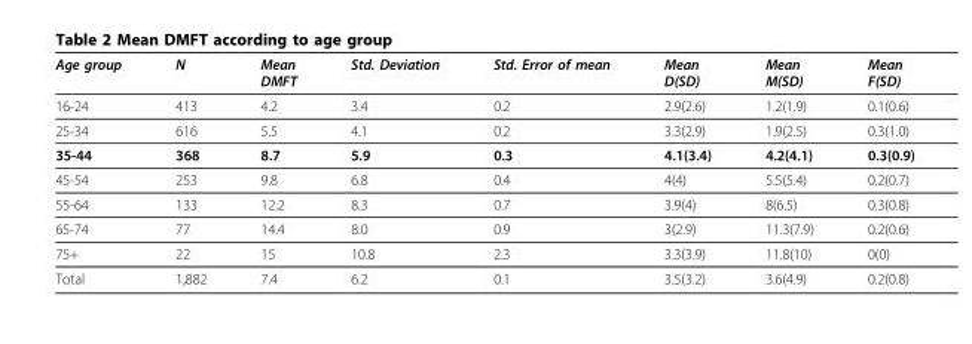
<table><thead><tr><td>Age group</td><td>N</td><td>Mean DMFT</td><td>Std. Deviation</td><td>Std. Error of mean</td><td>Mean D(SD)</td><td>Mean M(SD)</td><td>Mean F(SD)</td></tr></thead><tbody><tr><td>16-24</td><td>413</td><td>4.2</td><td>3.4</td><td>0.2</td><td>2.9(2.6)</td><td>1.2(1.9)</td><td>0.1(0.6)</td></tr><tr><td>25-34</td><td>616</td><td>5.5</td><td>4.1</td><td>0.2</td><td>3.3(2.9)</td><td>1.9(2.5)</td><td>0.3(1.0)</td></tr><tr><td>35-44</td><td>368</td><td>8.7</td><td>5.9</td><td>0.3</td><td>4.1(3.4)</td><td>4.2(4.1)</td><td>0.3(0.9)</td></tr><tr><td>45-54</td><td>253</td><td>9.8</td><td>6.8</td><td>0.4</td><td>4(4)</td><td>5.5(5.4)</td><td>0.2(0.7)</td></tr><tr><td>55-64</td><td>133</td><td>12.2</td><td>8.3</td><td>0.7</td><td>3.9(4)</td><td>8(6.5)</td><td>0.3(0.8)</td></tr><tr><td>65-74</td><td>77</td><td>14.4</td><td>8.0</td><td>0.9</td><td>3(2.9)</td><td>11.3(7.9)</td><td>0.2(0.6)</td></tr><tr><td>75+</td><td>22</td><td>15</td><td>10.8</td><td>2.3</td><td>3.3(3.9)</td><td>11.8(10)</td><td>0(0)</td></tr><tr><td>Total</td><td>1,882</td><td>7.4</td><td>6.2</td><td>0.1</td><td>3.5(3.2)</td><td>3.6(4.9)</td><td>0.2(0.8)</td></tr></tbody></table>